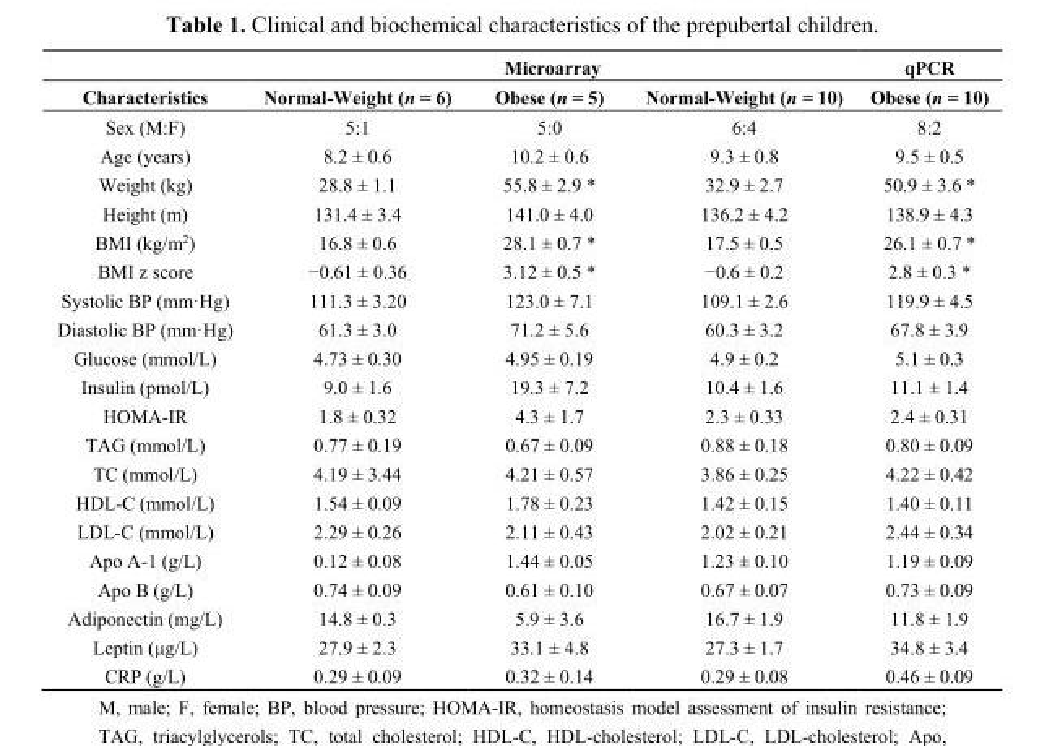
<table><thead><tr><td rowspan="2">Characteristics</td><td colspan="3">Microarray</td><td rowspan="2">qPCR Obese (n = 10)</td></tr><tr><td>Normal-Weight (n = 6)</td><td>Obese (n = 5)</td><td>Normal-Weight (n = 10)</td></tr></thead><tbody><tr><td>Sex (M:F)</td><td>5:1</td><td>5:0</td><td>6:4</td><td>8:2</td></tr><tr><td>Age (years)</td><td>8.2 ± 0.6</td><td>10.2 ± 0.6</td><td>9.3 ± 0.8</td><td>9.5 ± 0.5</td></tr><tr><td>Weight (kg)</td><td>28.8 ± 1.1</td><td>55.8 ± 2.9 *</td><td>32.9 ± 2.7</td><td>50.9 ± 3.6 *</td></tr><tr><td>Height (m)</td><td>131.4 ± 3.4</td><td>141.0 ± 4.0</td><td>136.2 ± 4.2</td><td>138.9 ± 4.3</td></tr><tr><td>BMI (kg/m<sup>2</sup>)</td><td>16.8 ± 0.6</td><td>28.1 ± 0.7 *</td><td>17.5 ± 0.5</td><td>26.1 ± 0.7 *</td></tr><tr><td>BMI z score</td><td>−0.61 ± 0.36</td><td>3.12 ± 0.5 *</td><td>−0.6 ± 0.2</td><td>2.8 ± 0.3 *</td></tr><tr><td>Systolic BP (mm·Hg)</td><td>111.3 ± 3.20</td><td>123.0 ± 7.1</td><td>109.1 ± 2.6</td><td>119.9 ± 4.5</td></tr><tr><td>Diastolic BP (mm·Hg)</td><td>61.3 ± 3.0</td><td>71.2 ± 5.6</td><td>60.3 ± 3.2</td><td>67.8 ± 3.9</td></tr><tr><td>Glucose (mmol/L)</td><td>4.73 ± 0.30</td><td>4.95 ± 0.19</td><td>4.9 ± 0.2</td><td>5.1 ± 0.3</td></tr><tr><td>Insulin (pmol/L)</td><td>9.0 ± 1.6</td><td>19.3 ± 7.2</td><td>10.4 ± 1.6</td><td>11.1 ± 1.4</td></tr><tr><td>HOMA-IR</td><td>1.8 ± 0.32</td><td>4.3 ± 1.7</td><td>2.3 ± 0.33</td><td>2.4 ± 0.31</td></tr><tr><td>TAG (mmol/L)</td><td>0.77 ± 0.19</td><td>0.67 ± 0.09</td><td>0.88 ± 0.18</td><td>0.80 ± 0.09</td></tr><tr><td>TC (mmol/L)</td><td>4.19 ± 3.44</td><td>4.21 ± 0.57</td><td>3.86 ± 0.25</td><td>4.22 ± 0.42</td></tr><tr><td>HDL-C (mmol/L)</td><td>1.54 ± 0.09</td><td>1.78 ± 0.23</td><td>1.42 ± 0.15</td><td>1.40 ± 0.11</td></tr><tr><td>LDL-C (mmol/L)</td><td>2.29 ± 0.26</td><td>2.11 ± 0.43</td><td>2.02 ± 0.21</td><td>2.44 ± 0.34</td></tr><tr><td>Apo A-1 (g/L)</td><td>0.12 ± 0.08</td><td>1.44 ± 0.05</td><td>1.23 ± 0.10</td><td>1.19 ± 0.09</td></tr><tr><td>Apo B (g/L)</td><td>0.74 ± 0.09</td><td>0.61 ± 0.10</td><td>0.67 ± 0.07</td><td>0.73 ± 0.09</td></tr><tr><td>Adiponectin (mg/L)</td><td>14.8 ± 0.3</td><td>5.9 ± 3.6</td><td>16.7 ± 1.9</td><td>11.8 ± 1.9</td></tr><tr><td>Leptin (μg/L)</td><td>27.9 ± 2.3</td><td>33.1 ± 4.8</td><td>27.3 ± 1.7</td><td>34.8 ± 3.4</td></tr><tr><td>CRP (g/L)</td><td>0.29 ± 0.09</td><td>0.32 ± 0.14</td><td>0.29 ± 0.08</td><td>0.46 ± 0.09</td></tr></tbody></table>